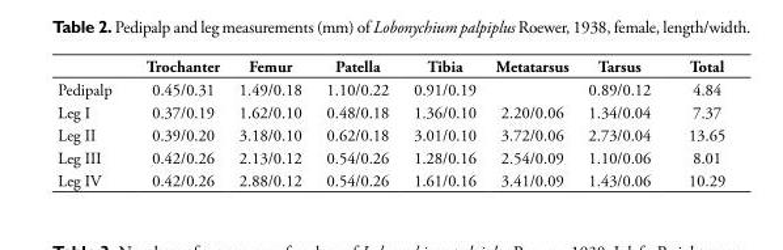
<table><thead><tr><td></td><td>Trochanter</td><td>Femur</td><td>Patella</td><td>Tibia</td><td>Metatarsus</td><td>Tarsus</td><td>Total</td></tr></thead><tbody><tr><td>Pedipalp</td><td>0.45/0.31</td><td>1.49/0.18</td><td>1.10/0.22</td><td>0.91/0.19</td><td></td><td>0.89/0.12</td><td>4.84</td></tr><tr><td>Leg I</td><td>0.37/0.19</td><td>1.62/0.10</td><td>0.48/0.18</td><td>1.36/0.10</td><td>2.20/0.06</td><td>1.34/0.04</td><td>7.37</td></tr><tr><td>Leg II</td><td>0.39/0.20</td><td>3.18/0.10</td><td>0.62/0.18</td><td>3.01/0.10</td><td>3.72/0.06</td><td>2.73/0.04</td><td>13.65</td></tr><tr><td>Leg III</td><td>0.42/0.26</td><td>2.13/0.12</td><td>0.54/0.26</td><td>1.28/0.16</td><td>2.54/0.09</td><td>1.10/0.06</td><td>8.01</td></tr><tr><td>Leg IV</td><td>0.42/0.26</td><td>2.88/0.12</td><td>0.54/0.26</td><td>1.61/0.16</td><td>3.41/0.09</td><td>1.43/0.06</td><td>10.29</td></tr></tbody></table>